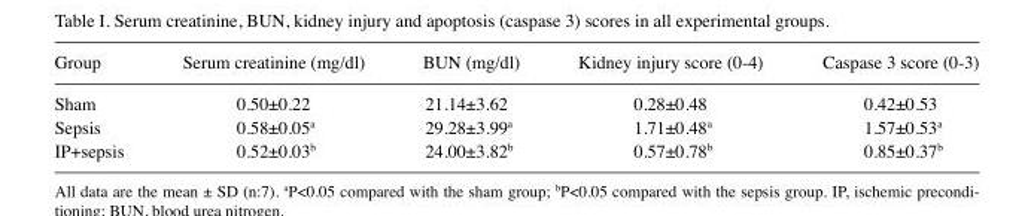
<table><thead><tr><td>Group</td><td>Serum creatinine (mg/dl)</td><td>BUN (mg/dl)</td><td>Kidney injury score (0-4)</td><td>Caspase 3 score (0-3)</td></tr></thead><tbody><tr><td>Sham</td><td>0.50±0.22</td><td>21.14±3.62</td><td>0.28±0.48</td><td>0.42±0.53</td></tr><tr><td>Sepsis</td><td>0.58±0.05<sup>a</sup></td><td>29.28±3.99<sup>a</sup></td><td>1.71±0.48<sup>a</sup></td><td>1.57±0.53<sup>a</sup></td></tr><tr><td>IP+sepsis</td><td>0.52±0.03<sup>b</sup></td><td>24.00±3.82<sup>b</sup></td><td>0.57±0.78<sup>b</sup></td><td>0.85±0.37<sup>b</sup></td></tr></tbody></table>